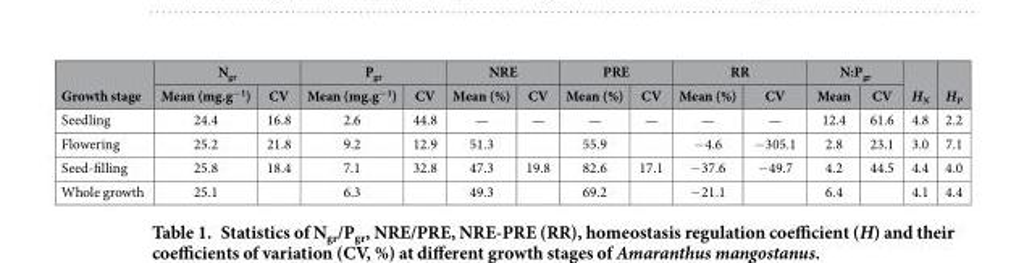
<table><thead><tr><td rowspan="2">Growth stage</td><td colspan="2">N<sub>gr</sub></td><td colspan="2">P<sub>gr</sub></td><td colspan="2">NRE</td><td colspan="2">PRE</td><td colspan="2">RR</td><td colspan="2">N:P<sub>gr</sub></td><td rowspan="2">H<sub>N</sub></td><td rowspan="2">H<sub>P</sub></td></tr><tr><td>Mean (mg.g−1)</td><td>CV</td><td>Mean (mg.g−1)</td><td>CV</td><td>Mean (%)</td><td>CV</td><td>Mean (%)</td><td>CV</td><td>Mean (%)</td><td>CV</td><td>Mean</td><td>CV</td></tr></thead><tbody><tr><td>Seedling</td><td>24.4</td><td>16.8</td><td>2.6</td><td>44.8</td><td>—</td><td>—</td><td>—</td><td>—</td><td>—</td><td>—</td><td>12.4</td><td>61.6</td><td>4.8</td><td>2.2</td></tr><tr><td>Flowering</td><td>25.2</td><td>21.8</td><td>9.2</td><td>12.9</td><td>51.3</td><td></td><td>55.9</td><td></td><td>− 4.6</td><td>− 305.1</td><td>2.8</td><td>23.1</td><td>3.0</td><td>7.1</td></tr><tr><td>Seed-filling</td><td>25.8</td><td>18.4</td><td>7.1</td><td>32.8</td><td>47.3</td><td>19.8</td><td>82.6</td><td>17.1</td><td>− 37.6</td><td>− 49.7</td><td>4.2</td><td>44.5</td><td>4.4</td><td>4.0</td></tr><tr><td>Whole growth</td><td>25.1</td><td></td><td>6.3</td><td></td><td>49.3</td><td></td><td>69.2</td><td></td><td>− 21.1</td><td></td><td>6.4</td><td></td><td>4.1</td><td>4.4</td></tr></tbody></table>